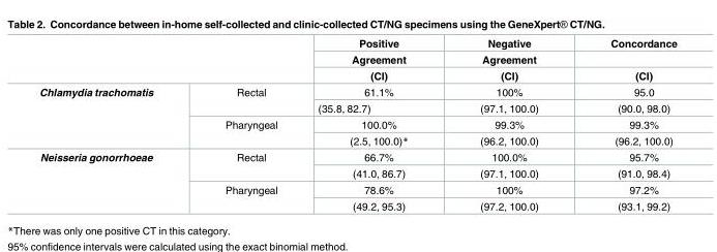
<table><thead><tr><td rowspan="3"></td><td rowspan="3"></td><td rowspan="3">Positive Agreement (CI)</td><td rowspan="3">Negative Agreement (CI)</td><td rowspan="3">Concordance (CI)</td></tr><tr></tr><tr></tr></thead><tbody><tr><td rowspan="4">Chlamydia trachomatis</td><td rowspan="2">Rectal</td><td>61.1%</td><td>100%</td><td>95.0</td></tr><tr><td>(35.8, 82.7)</td><td>(97.1, 100.0)</td><td>(90.0, 98.0)</td></tr><tr><td rowspan="2">Pharyngeal</td><td>100.0%</td><td>99.3%</td><td>99.3%</td></tr><tr><td>(2.5, 100.0)*</td><td>(96.2, 100.0)</td><td>(96.2, 100.0)</td></tr><tr><td rowspan="4">Neisseria gonorrhoeae</td><td rowspan="2">Rectal</td><td>66.7%</td><td>100.0%</td><td>95.7%</td></tr><tr><td>(41.0, 86.7)</td><td>(97.1, 100.0)</td><td>(91.0, 98.4)</td></tr><tr><td rowspan="2">Pharyngeal</td><td>78.6%</td><td>100%</td><td>97.2%</td></tr><tr><td>(49.2, 95.3)</td><td>(97.2, 100.0)</td><td>(93.1, 99.2)</td></tr></tbody></table>